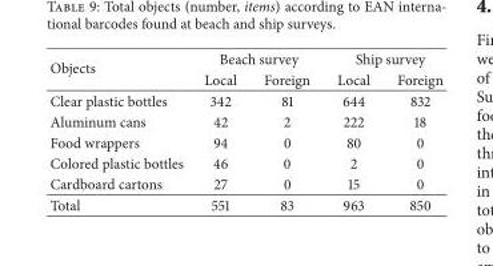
<table><thead><tr><td rowspan="2">Objects</td><td colspan="2">Beach survey</td><td colspan="2">Ship survey</td></tr><tr><td>Local</td><td>Foreign</td><td>Local</td><td>Foreign</td></tr></thead><tbody><tr><td>Clear plastic bottles</td><td>342</td><td>81</td><td>644</td><td>832</td></tr><tr><td>Aluminum cans</td><td>42</td><td>2</td><td>222</td><td>18</td></tr><tr><td>Food wrappers</td><td>94</td><td>0</td><td>80</td><td>0</td></tr><tr><td>Colored plastic bottles</td><td>46</td><td>0</td><td>2</td><td>0</td></tr><tr><td>Cardboard cartons</td><td>27</td><td>0</td><td>15</td><td>0</td></tr><tr><td>Total</td><td>551</td><td>83</td><td>963</td><td>850</td></tr></tbody></table>